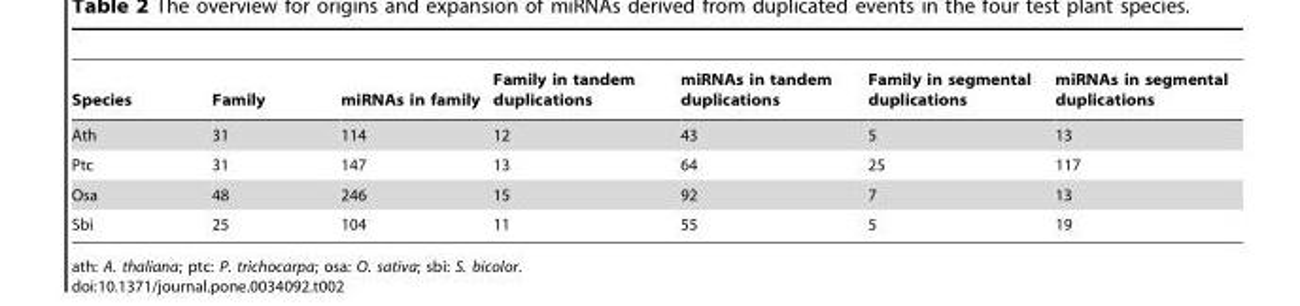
<table><thead><tr><td>Species</td><td>Family</td><td>miRNAs in family</td><td>Family in tandem duplications</td><td>miRNAs in tandem duplications</td><td>Family in segmental duplications</td><td>miRNAs in segmental duplications</td></tr></thead><tbody><tr><td>Ath</td><td>31</td><td>114</td><td>12</td><td>43</td><td>5</td><td>13</td></tr><tr><td>Ptc</td><td>31</td><td>147</td><td>13</td><td>64</td><td>25</td><td>117</td></tr><tr><td>Osa</td><td>48</td><td>246</td><td>15</td><td>92</td><td>7</td><td>13</td></tr><tr><td>Sbi</td><td>25</td><td>104</td><td>11</td><td>55</td><td>5</td><td>19</td></tr></tbody></table>